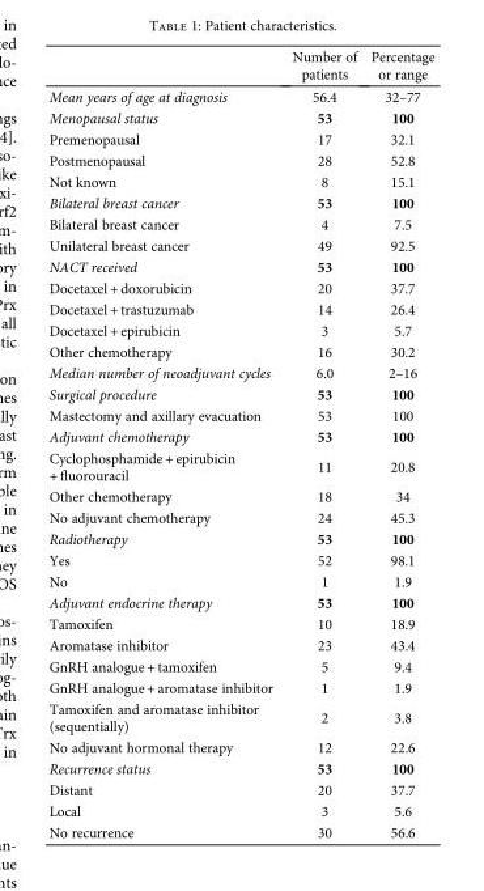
<table><thead><tr><td></td><td>Number of patients</td><td>Percentage or range</td></tr></thead><tbody><tr><td>Mean years of age at diagnosis</td><td>56.4</td><td>32–77</td></tr><tr><td>Menopausal status</td><td>53</td><td>100</td></tr><tr><td>Premenopausal</td><td>17</td><td>32.1</td></tr><tr><td>Postmenopausal</td><td>28</td><td>52.8</td></tr><tr><td>Not known</td><td>8</td><td>15.1</td></tr><tr><td>Bilateral breast cancer</td><td>53</td><td>100</td></tr><tr><td>Bilateral breast cancer</td><td>4</td><td>7.5</td></tr><tr><td>Unilateral breast cancer</td><td>49</td><td>92.5</td></tr><tr><td>NACT received</td><td>53</td><td>100</td></tr><tr><td>Docetaxel + doxorubicin</td><td>20</td><td>37.7</td></tr><tr><td>Docetaxel + trastuzumab</td><td>14</td><td>26.4</td></tr><tr><td>Docetaxel + epirubicin</td><td>3</td><td>5.7</td></tr><tr><td>Other chemotherapy</td><td>16</td><td>30.2</td></tr><tr><td>Median number of neoadjuvant cycles</td><td>6.0</td><td>2–16</td></tr><tr><td>Surgical procedure</td><td>53</td><td>100</td></tr><tr><td>Mastectomy and axillary evacuation</td><td>53</td><td>100</td></tr><tr><td>Adjuvant chemotherapy</td><td>53</td><td>100</td></tr><tr><td>Cyclophosphamide + epirubicin + fluorouracil</td><td>11</td><td>20.8</td></tr><tr><td>Other chemotherapy</td><td>18</td><td>34</td></tr><tr><td>No adjuvant chemotherapy</td><td>24</td><td>45.3</td></tr><tr><td>Radiotherapy</td><td>53</td><td>100</td></tr><tr><td>Yes</td><td>52</td><td>98.1</td></tr><tr><td>No</td><td>1</td><td>1.9</td></tr><tr><td>Adjuvant endocrine therapy</td><td>53</td><td>100</td></tr><tr><td>Tamoxifen</td><td>10</td><td>18.9</td></tr><tr><td>Aromatase inhibitor</td><td>23</td><td>43.4</td></tr><tr><td>GnRH analogue + tamoxifen</td><td>5</td><td>9.4</td></tr><tr><td>GnRH analogue + aromatase inhibitor</td><td>1</td><td>1.9</td></tr><tr><td>Tamoxifen and aromatase inhibitor (sequentially)</td><td>2</td><td>3.8</td></tr><tr><td>No adjuvant hormonal therapy</td><td>12</td><td>22.6</td></tr><tr><td>Recurrence status</td><td>53</td><td>100</td></tr><tr><td>Distant</td><td>20</td><td>37.7</td></tr><tr><td>Local</td><td>3</td><td>5.6</td></tr><tr><td>No recurrence</td><td>30</td><td>56.6</td></tr></tbody></table>